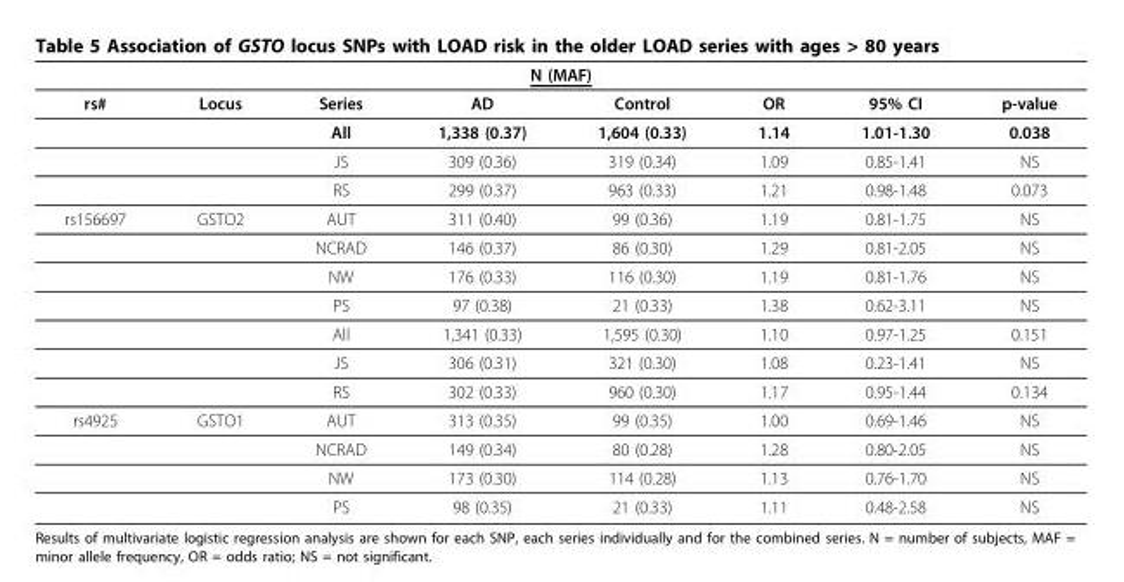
<table><thead><tr><td colspan="8">N (MAF)</td></tr><tr><td>rs#</td><td>Locus</td><td>Series</td><td>AD</td><td>Control</td><td>OR</td><td>95% CI</td><td>p-value</td></tr></thead><tbody><tr><td></td><td></td><td>All</td><td>1,338 (0.37)</td><td>1,604 (0.33)</td><td>1.14</td><td>1.01-1.30</td><td>0.038</td></tr><tr><td></td><td></td><td>JS</td><td>309 (0.36)</td><td>319 (0.34)</td><td>1.09</td><td>0.85-1.41</td><td>NS</td></tr><tr><td></td><td></td><td>RS</td><td>299 (0.37)</td><td>963 (0.33)</td><td>1.21</td><td>0.98-1.48</td><td>0.073</td></tr><tr><td rowspan="7">rs156697</td><td>GSTO2</td><td>AUT</td><td>311 (0.40)</td><td>99 (0.36)</td><td>1.19</td><td>0.81-1.75</td><td>NS</td></tr><tr><td></td><td>NCRAD</td><td>146 (0.37)</td><td>86 (0.30)</td><td>1.29</td><td>0.81-2.05</td><td>NS</td></tr><tr><td></td><td>NW</td><td>176 (0.33)</td><td>116 (0.30)</td><td>1.19</td><td>0.81-1.76</td><td>NS</td></tr><tr><td></td><td>PS</td><td>97 (0.38)</td><td>21 (0.33)</td><td>1.38</td><td>0.62-3.11</td><td>NS</td></tr><tr><td></td><td>All</td><td>1,341 (0.33)</td><td>1,595 (0.30)</td><td>1.10</td><td>0.97-1.25</td><td>0.151</td></tr><tr><td></td><td>JS</td><td>306 (0.31)</td><td>321 (0.30)</td><td>1.08</td><td>0.23-1.41</td><td>NS</td></tr><tr><td></td><td>RS</td><td>302 (0.33)</td><td>960 (0.30)</td><td>1.17</td><td>0.95-1.44</td><td>0.134</td></tr><tr><td rowspan="4">rs4925</td><td>GSTO1</td><td>AUT</td><td>313 (0.35)</td><td>99 (0.35)</td><td>1.00</td><td>0.69-1.46</td><td>NS</td></tr><tr><td></td><td>NCRAD</td><td>149 (0.34)</td><td>80 (0.28)</td><td>1.28</td><td>0.80-2.05</td><td>NS</td></tr><tr><td></td><td>NW</td><td>173 (0.30)</td><td>114 (0.28)</td><td>1.13</td><td>0.76-1.70</td><td>NS</td></tr><tr><td></td><td>PS</td><td>98 (0.35)</td><td>21 (0.33)</td><td>1.11</td><td>0.48-2.58</td><td>NS</td></tr></tbody></table>